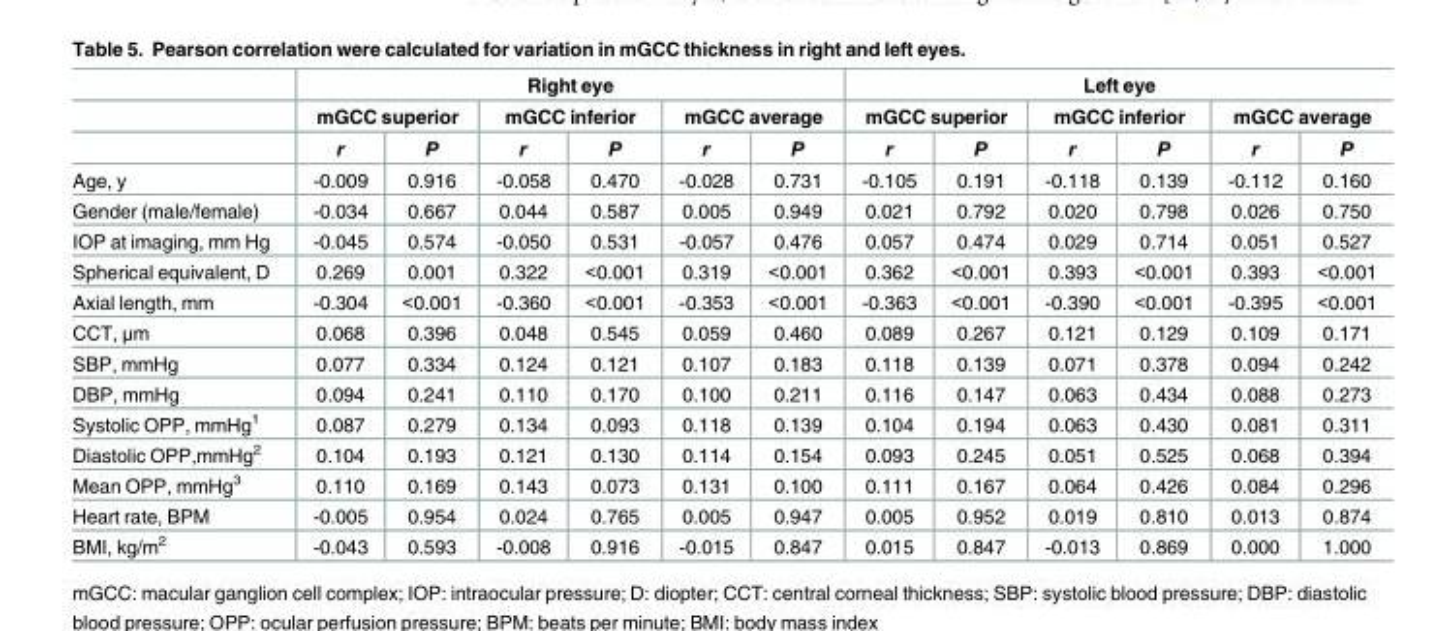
<table><thead><tr><td rowspan="3"></td><td colspan="6">Right eye</td><td colspan="6">Left eye</td></tr><tr><td colspan="2">mGCC superior</td><td colspan="2">mGCC inferior</td><td colspan="2">mGCC average</td><td colspan="2">mGCC superior</td><td colspan="2">mGCC inferior</td><td colspan="2">mGCC average</td></tr><tr><td>r</td><td>P</td><td>r</td><td>P</td><td>r</td><td>P</td><td>r</td><td>P</td><td>r</td><td>P</td><td>r</td><td>P</td></tr></thead><tbody><tr><td>Age, y</td><td>-0.009</td><td>0.916</td><td>-0.058</td><td>0.470</td><td>-0.028</td><td>0.731</td><td>-0.105</td><td>0.191</td><td>-0.118</td><td>0.139</td><td>-0.112</td><td>0.160</td></tr><tr><td>Gender (male/female)</td><td>-0.034</td><td>0.667</td><td>0.044</td><td>0.587</td><td>0.005</td><td>0.949</td><td>0.021</td><td>0.792</td><td>0.020</td><td>0.798</td><td>0.026</td><td>0.750</td></tr><tr><td>IOP at imaging, mm Hg</td><td>-0.045</td><td>0.574</td><td>-0.050</td><td>0.531</td><td>-0.057</td><td>0.476</td><td>0.057</td><td>0.474</td><td>0.029</td><td>0.714</td><td>0.051</td><td>0.527</td></tr><tr><td>Spherical equivalent, D</td><td>0.269</td><td>0.001</td><td>0.322</td><td>&lt;0.001</td><td>0.319</td><td>&lt;0.001</td><td>0.362</td><td>&lt;0.001</td><td>0.393</td><td>&lt;0.001</td><td>0.393</td><td>&lt;0.001</td></tr><tr><td>Axial length, mm</td><td>-0.304</td><td>&lt;0.001</td><td>-0.360</td><td>&lt;0.001</td><td>-0.353</td><td>&lt;0.001</td><td>-0.363</td><td>&lt;0.001</td><td>-0.390</td><td>&lt;0.001</td><td>-0.395</td><td>&lt;0.001</td></tr><tr><td>CCT, μm</td><td>0.068</td><td>0.396</td><td>0.048</td><td>0.545</td><td>0.059</td><td>0.460</td><td>0.089</td><td>0.267</td><td>0.121</td><td>0.129</td><td>0.109</td><td>0.171</td></tr><tr><td>SBP, mmHg</td><td>0.077</td><td>0.334</td><td>0.124</td><td>0.121</td><td>0.107</td><td>0.183</td><td>0.118</td><td>0.139</td><td>0.071</td><td>0.378</td><td>0.094</td><td>0.242</td></tr><tr><td>DBP, mmHg</td><td>0.094</td><td>0.241</td><td>0.110</td><td>0.170</td><td>0.100</td><td>0.211</td><td>0.116</td><td>0.147</td><td>0.063</td><td>0.434</td><td>0.088</td><td>0.273</td></tr><tr><td>Systolic OPP, mmHg<sup>1</sup></td><td>0.087</td><td>0.279</td><td>0.134</td><td>0.093</td><td>0.118</td><td>0.139</td><td>0.104</td><td>0.194</td><td>0.063</td><td>0.430</td><td>0.081</td><td>0.311</td></tr><tr><td>Diastolic OPP,mmHg<sup>2</sup></td><td>0.104</td><td>0.193</td><td>0.121</td><td>0.130</td><td>0.114</td><td>0.154</td><td>0.093</td><td>0.245</td><td>0.051</td><td>0.525</td><td>0.068</td><td>0.394</td></tr><tr><td>Mean OPP, mmHg<sup>3</sup></td><td>0.110</td><td>0.169</td><td>0.143</td><td>0.073</td><td>0.131</td><td>0.100</td><td>0.111</td><td>0.167</td><td>0.064</td><td>0.426</td><td>0.084</td><td>0.296</td></tr><tr><td>Heart rate, BPM</td><td>-0.005</td><td>0.954</td><td>0.024</td><td>0.765</td><td>0.005</td><td>0.947</td><td>0.005</td><td>0.952</td><td>0.019</td><td>0.810</td><td>0.013</td><td>0.874</td></tr><tr><td>BMI, kg/m<sup>2</sup></td><td>-0.043</td><td>0.593</td><td>-0.008</td><td>0.916</td><td>-0.015</td><td>0.847</td><td>0.015</td><td>0.847</td><td>-0.013</td><td>0.869</td><td>0.000</td><td>1.000</td></tr></tbody></table>